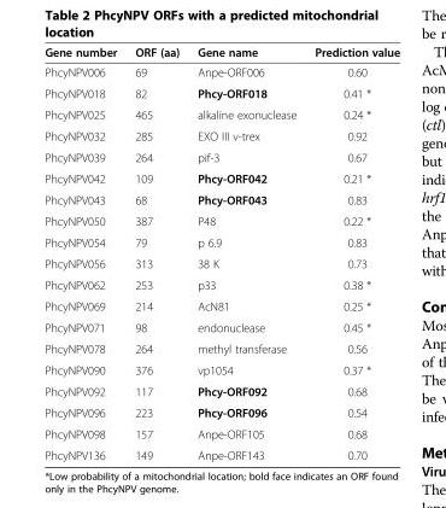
<table><thead><tr><td>Gene number</td><td>ORF (aa)</td><td>Gene name</td><td>Prediction value</td></tr></thead><tbody><tr><td>PhcyNPV006</td><td>69</td><td>Anpe-ORF006</td><td>0.60</td></tr><tr><td>PhcyNPV018</td><td>82</td><td>Phcy-ORF018</td><td>0.41 *</td></tr><tr><td>PhcyNPV025</td><td>465</td><td>alkaline exonuclease</td><td>0.24 *</td></tr><tr><td>PhcyNPV032</td><td>285</td><td>EXO III v-trex</td><td>0.92</td></tr><tr><td>PhcyNPV039</td><td>264</td><td>pif-3</td><td>0.67</td></tr><tr><td>PhcyNPV042</td><td>109</td><td>Phcy-ORF042</td><td>0.21 *</td></tr><tr><td>PhcyNPV043</td><td>68</td><td>Phcy-ORF043</td><td>0.83</td></tr><tr><td>PhcyNPV050</td><td>387</td><td>P48</td><td>0.22 *</td></tr><tr><td>PhcyNPV054</td><td>79</td><td>p 6.9</td><td>0.83</td></tr><tr><td>PhcyNPV056</td><td>313</td><td>38 K</td><td>0.73</td></tr><tr><td>PhcyNPV062</td><td>253</td><td>p33</td><td>0.38 *</td></tr><tr><td>PhcyNPV069</td><td>214</td><td>AcN81</td><td>0.25 *</td></tr><tr><td>PhcyNPV071</td><td>98</td><td>endonuclease</td><td>0.45 *</td></tr><tr><td>PhcyNPV078</td><td>264</td><td>methyl transferase</td><td>0.56</td></tr><tr><td>PhcyNPV090</td><td>376</td><td>vp1054</td><td>0.37 *</td></tr><tr><td>PhcyNPV092</td><td>117</td><td>Phcy-ORF092</td><td>0.68</td></tr><tr><td>PhcyNPV096</td><td>223</td><td>Phcy-ORF096</td><td>0.54</td></tr><tr><td>PhcyNPV098</td><td>157</td><td>Anpe-ORF105</td><td>0.68</td></tr><tr><td>PhcyNPV136</td><td>149</td><td>Anpe-ORF143</td><td>0.70</td></tr></tbody></table>